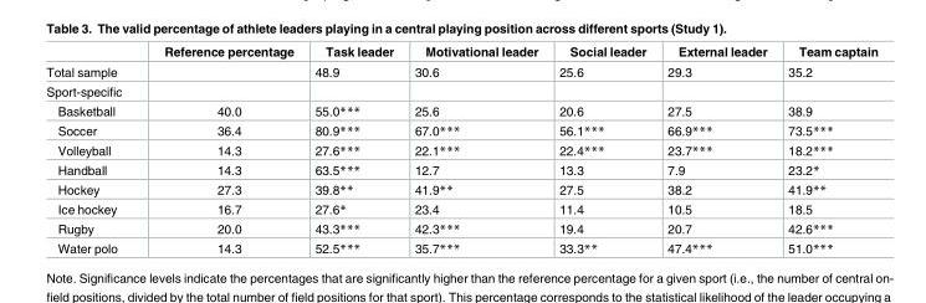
<table><thead><tr><td></td><td>Reference percentage</td><td>Task leader</td><td>Motivational leader</td><td>Social leader</td><td>External leader</td><td>Team captain</td></tr></thead><tbody><tr><td>Total sample</td><td></td><td>48.9</td><td>30.6</td><td>25.6</td><td>29.3</td><td>35.2</td></tr><tr><td colspan="7">Sport-specific</td></tr><tr><td>Basketball</td><td>40.0</td><td>55.0***</td><td>25.6</td><td>20.6</td><td>27.5</td><td>38.9</td></tr><tr><td>Soccer</td><td>36.4</td><td>80.9***</td><td>67.0***</td><td>56.1***</td><td>66.9***</td><td>73.5***</td></tr><tr><td>Volleyball</td><td>14.3</td><td>27.6***</td><td>22.1***</td><td>22.4***</td><td>23.7***</td><td>18.2***</td></tr><tr><td>Handball</td><td>14.3</td><td>63.5***</td><td>12.7</td><td>13.3</td><td>7.9</td><td>23.2*</td></tr><tr><td>Hockey</td><td>27.3</td><td>39.8**</td><td>41.9**</td><td>27.5</td><td>38.2</td><td>41.9**</td></tr><tr><td>Ice hockey</td><td>16.7</td><td>27.6*</td><td>23.4</td><td>11.4</td><td>10.5</td><td>18.5</td></tr><tr><td>Rugby</td><td>20.0</td><td>43.3***</td><td>42.3***</td><td>19.4</td><td>20.7</td><td>42.6***</td></tr><tr><td>Water polo</td><td>14.3</td><td>52.5***</td><td>35.7***</td><td>33.3**</td><td>47.4***</td><td>51.0***</td></tr></tbody></table>